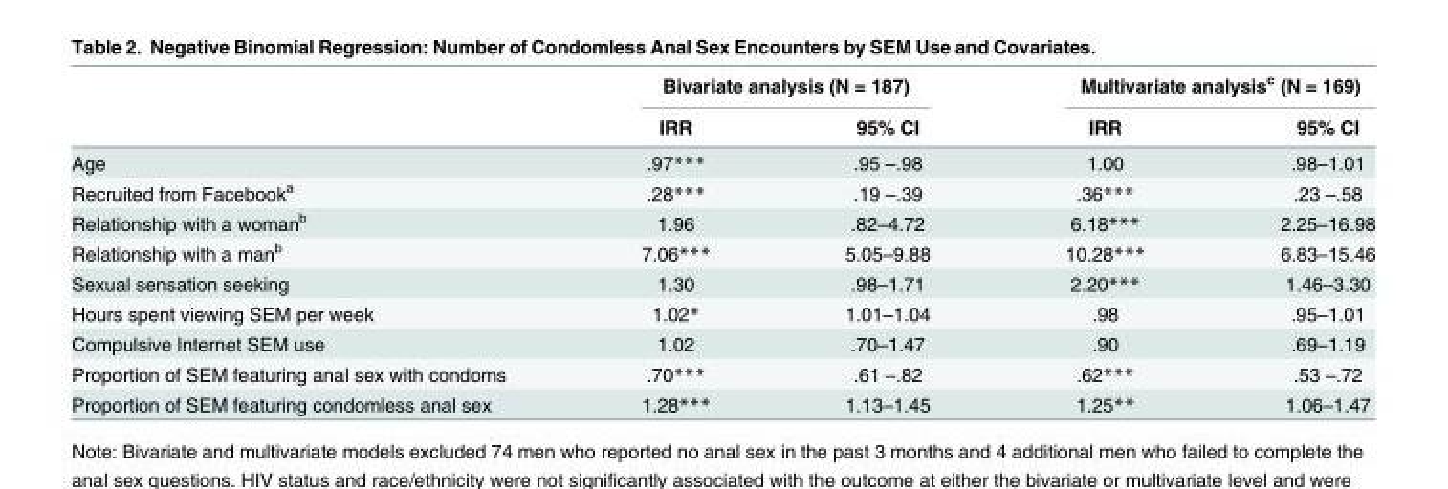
<table><thead><tr><td rowspan="2"></td><td colspan="2">Bivariate analysis (N = 187)</td><td colspan="2">Multivariate analysis<sup>c</sup> (N = 169)</td></tr><tr><td>IRR</td><td>95% CI</td><td>IRR</td><td>95% CI</td></tr></thead><tbody><tr><td>Age</td><td>.97***</td><td>.95 –.98</td><td>1.00</td><td>.98–1.01</td></tr><tr><td>Recruited from Facebook<sup>a</sup></td><td>.28***</td><td>.19 –.39</td><td>.36***</td><td>.23 –.58</td></tr><tr><td>Relationship with a woman<sup>b</sup></td><td>1.96</td><td>.82–4.72</td><td>6.18***</td><td>2.25–16.98</td></tr><tr><td>Relationship with a man<sup>b</sup></td><td>7.06***</td><td>5.05–9.88</td><td>10.28***</td><td>6.83–15.46</td></tr><tr><td>Sexual sensation seeking</td><td>1.30</td><td>.98–1.71</td><td>2.20***</td><td>1.46–3.30</td></tr><tr><td>Hours spent viewing SEM per week</td><td>1.02*</td><td>1.01–1.04</td><td>.98</td><td>.95–1.01</td></tr><tr><td>Compulsive Internet SEM use</td><td>1.02</td><td>.70–1.47</td><td>.90</td><td>.69–1.19</td></tr><tr><td>Proportion of SEM featuring anal sex with condoms</td><td>.70***</td><td>.61 –.82</td><td>.62***</td><td>.53 –.72</td></tr><tr><td>Proportion of SEM featuring condomless anal sex</td><td>1.28***</td><td>1.13–1.45</td><td>1.25**</td><td>1.06–1.47</td></tr></tbody></table>